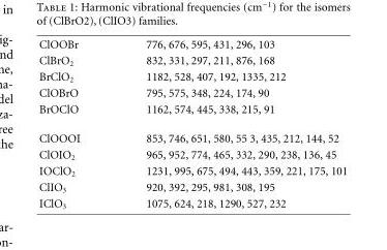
<table><tbody><tr><td>ClOOBr</td><td>776, 676, 595, 431, 296, 103</td></tr><tr><td>ClBrO<sub>2</sub></td><td>832, 331, 297, 211, 876, 168</td></tr><tr><td>BrClO<sub>2</sub></td><td>1182, 528, 407, 192, 1335, 212</td></tr><tr><td>ClOBrO</td><td>795, 575, 348, 224, 174, 90</td></tr><tr><td>BrOClO</td><td>1162, 574, 445, 338, 215, 91</td></tr><tr><td>ClOOOI</td><td>853, 746, 651, 580, 55 3, 435, 212, 144, 52</td></tr><tr><td>ClOIO<sub>2</sub></td><td>965, 952, 774, 465, 332, 290, 238, 136, 45</td></tr><tr><td>IOClO<sub>2</sub></td><td>1231, 995, 675, 494, 443, 359, 221, 175, 101</td></tr><tr><td>ClIO<sub>3</sub></td><td>920, 392, 295, 981, 308, 195</td></tr><tr><td>IClO<sub>3</sub></td><td>1075, 624, 218, 1290, 527, 232</td></tr></tbody></table>